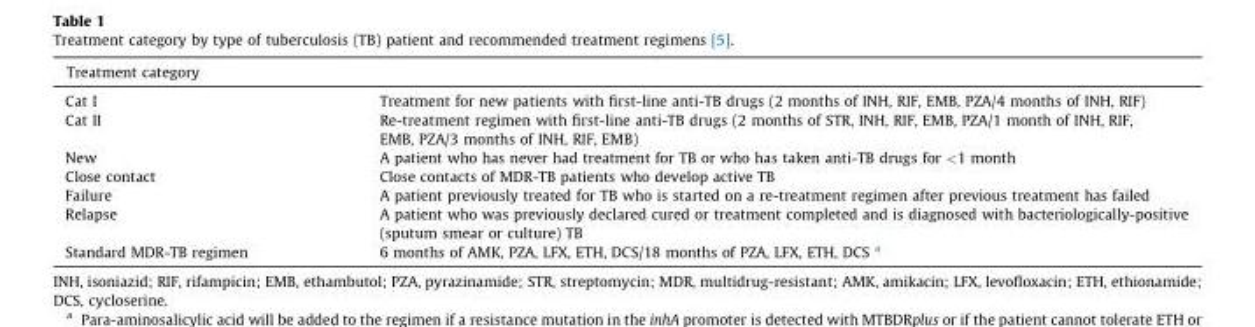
<table><thead><tr><td>Treatment category</td><td></td></tr></thead><tbody><tr><td>Cat I</td><td>Treatment for new patients with first-line anti-TB drugs (2 months of INH, RIF, EMB, PZA/4 months of INH, RIF)</td></tr><tr><td>Cat II</td><td>Re-treatment regimen with first-line anti-TB drugs (2 months of STR, INH, RIF, EMB, PZA/1 month of INH, RIF, EMB, PZA/3 months of INH, RIF, EMB)</td></tr><tr><td>New</td><td>A patient who has never had treatment for TB or who has taken anti-TB drugs for &lt;1 month</td></tr><tr><td>Close contact</td><td>Close contacts of MDR-TB patients who develop active TB</td></tr><tr><td>Failure</td><td>A patient previously treated for TB who is started on a re-treatment regimen after previous treatment has failed</td></tr><tr><td>Relapse</td><td>A patient who was previously declared cured or treatment completed and is diagnosed with bacteriologically-positive (sputum smear or culture) TB</td></tr><tr><td>Standard MDR-TB regimen</td><td>6 months of AMK, PZA, LFX, ETH, DCS/18 months of PZA, LFX, ETH, DCS a</td></tr></tbody></table>